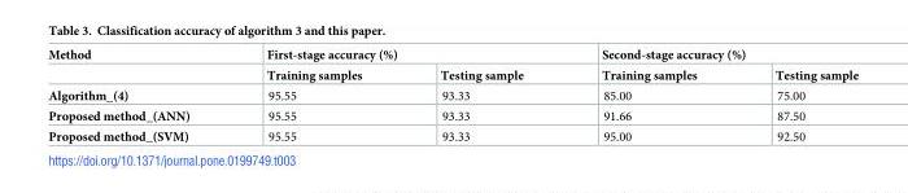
<table><thead><tr><td rowspan="2">Method</td><td colspan="2">First-stage accuracy (%)</td><td colspan="2">Second-stage accuracy (%)</td></tr><tr><td>Training samples</td><td>Testing sample</td><td>Training samples</td><td>Testing sample</td></tr></thead><tbody><tr><td>Algorithm_(4)</td><td>95.55</td><td>93.33</td><td>85.00</td><td>75.00</td></tr><tr><td>Proposed method_(ANN)</td><td>95.55</td><td>93.33</td><td>91.66</td><td>87.50</td></tr><tr><td>Proposed method_(SVM)</td><td>95.55</td><td>93.33</td><td>95.00</td><td>92.50</td></tr></tbody></table>